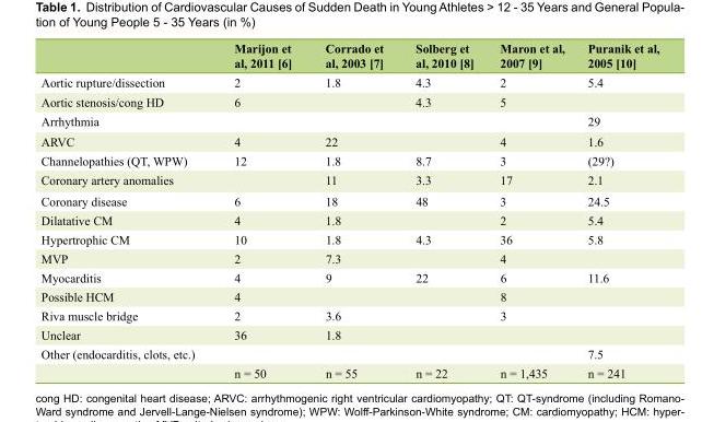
<table><thead><tr><td></td><td>Marijon et al, 2011 [6]</td><td>Corrado et al, 2003 [7]</td><td>Solberg et al, 2010 [8]</td><td>Maron et al, 2007 [9]</td><td>Puranik et al, 2005 [10]</td></tr></thead><tbody><tr><td>Aortic rupture/dissection</td><td>2</td><td>1.8</td><td>4.3</td><td>2</td><td>5.4</td></tr><tr><td>Aortic stenosis/cong HD</td><td>6</td><td></td><td>4.3</td><td>5</td><td></td></tr><tr><td>Arrhythmia</td><td></td><td></td><td></td><td></td><td>29</td></tr><tr><td>ARVC</td><td>4</td><td>22</td><td></td><td>4</td><td>1.6</td></tr><tr><td>Channelopathies (QT, WPW)</td><td>12</td><td>1.8</td><td>8.7</td><td>3</td><td>(29?)</td></tr><tr><td>Coronary artery anomalies</td><td></td><td>11</td><td>3.3</td><td>17</td><td>2.1</td></tr><tr><td>Coronary disease</td><td>6</td><td>18</td><td>48</td><td>3</td><td>24.5</td></tr><tr><td>Dilatative CM</td><td>4</td><td>1.8</td><td></td><td>2</td><td>5.4</td></tr><tr><td>Hypertrophic CM</td><td>10</td><td>1.8</td><td>4.3</td><td>36</td><td>5.8</td></tr><tr><td>MVP</td><td>2</td><td>7.3</td><td></td><td>4</td><td></td></tr><tr><td>Myocarditis</td><td>4</td><td>9</td><td>22</td><td>6</td><td>11.6</td></tr><tr><td>Possible HCM</td><td>4</td><td></td><td></td><td>8</td><td></td></tr><tr><td>Riva muscle bridge</td><td>2</td><td>3.6</td><td></td><td>3</td><td></td></tr><tr><td>Unclear</td><td>36</td><td>1.8</td><td></td><td></td><td></td></tr><tr><td rowspan="2">Other (endocarditis, clots, etc.)</td><td></td><td></td><td></td><td></td><td>7.5</td></tr><tr><td>n = 50</td><td>n = 55</td><td>n = 22</td><td>n = 1,435</td><td>n = 241</td></tr></tbody></table>